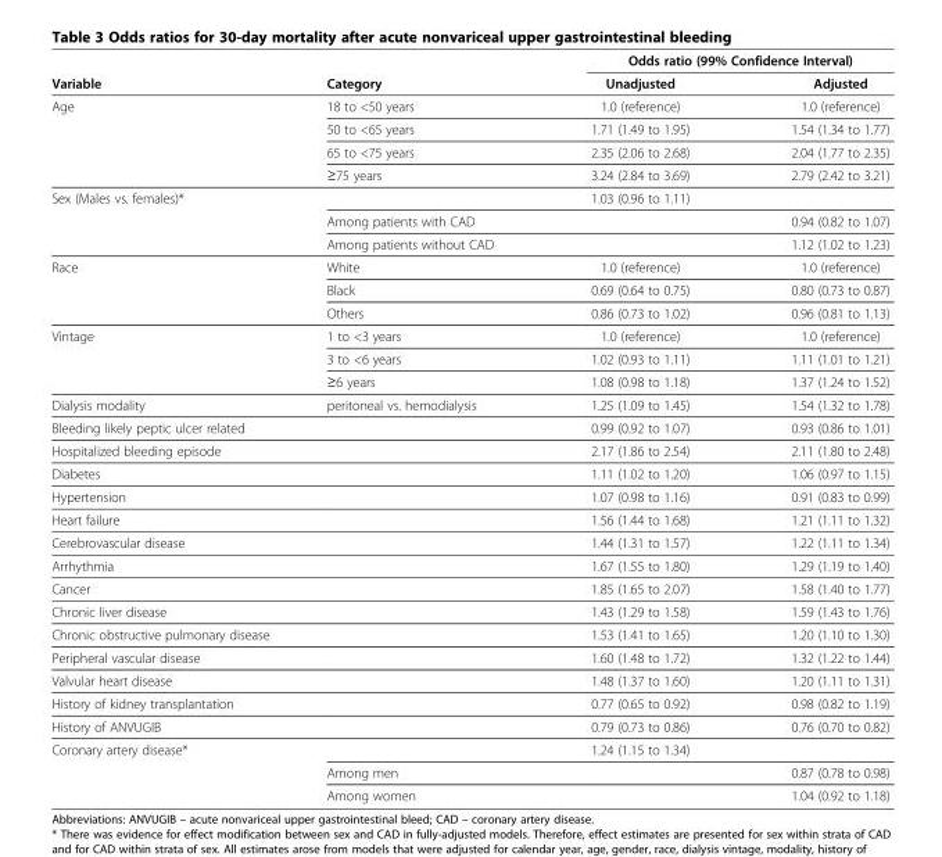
<table><thead><tr><td rowspan="2">Variable</td><td rowspan="2">Category</td><td colspan="2">Odds ratio (99% Confidence Interval)</td></tr><tr><td>Unadjusted</td><td>Adjusted</td></tr></thead><tbody><tr><td rowspan="4">Age</td><td>18 to &lt;50 years</td><td>1.0 (reference)</td><td>1.0 (reference)</td></tr><tr><td>50 to &lt;65 years</td><td>1.71 (1.49 to 1.95)</td><td>1.54 (1.34 to 1.77)</td></tr><tr><td>65 to &lt;75 years</td><td>2.35 (2.06 to 2.68)</td><td>2.04 (1.77 to 2.35)</td></tr><tr><td>≥75 years</td><td>3.24 (2.84 to 3.69)</td><td>2.79 (2.42 to 3.21)</td></tr><tr><td rowspan="3">Sex (Males vs. females)*</td><td></td><td>1.03 (0.96 to 1.11)</td><td></td></tr><tr><td>Among patients with CAD</td><td></td><td>0.94 (0.82 to 1.07)</td></tr><tr><td>Among patients without CAD</td><td></td><td>1.12 (1.02 to 1.23)</td></tr><tr><td rowspan="3">Race</td><td>White</td><td>1.0 (reference)</td><td>1.0 (reference)</td></tr><tr><td>Black</td><td>0.69 (0.64 to 0.75)</td><td>0.80 (0.73 to 0.87)</td></tr><tr><td>Others</td><td>0.86 (0.73 to 1.02)</td><td>0.96 (0.81 to 1.13)</td></tr><tr><td rowspan="3">Vintage</td><td>1 to &lt;3 years</td><td>1.0 (reference)</td><td>1.0 (reference)</td></tr><tr><td>3 to &lt;6 years</td><td>1.02 (0.93 to 1.11)</td><td>1.11 (1.01 to 1.21)</td></tr><tr><td>≥6 years</td><td>1.08 (0.98 to 1.18)</td><td>1.37 (1.24 to 1.52)</td></tr><tr><td>Dialysis modality</td><td>peritoneal vs. hemodialysis</td><td>1.25 (1.09 to 1.45)</td><td>1.54 (1.32 to 1.78)</td></tr><tr><td colspan="2">Bleeding likely peptic ulcer related</td><td>0.99 (0.92 to 1.07)</td><td>0.93 (0.86 to 1.01)</td></tr><tr><td colspan="2">Hospitalized bleeding episode</td><td>2.17 (1.86 to 2.54)</td><td>2.11 (1.80 to 2.48)</td></tr><tr><td>Diabetes</td><td></td><td>1.11 (1.02 to 1.20)</td><td>1.06 (0.97 to 1.15)</td></tr><tr><td>Hypertension</td><td></td><td>1.07 (0.98 to 1.16)</td><td>0.91 (0.83 to 0.99)</td></tr><tr><td>Heart failure</td><td></td><td>1.56 (1.44 to 1.68)</td><td>1.21 (1.11 to 1.32)</td></tr><tr><td>Cerebrovascular disease</td><td></td><td>1.44 (1.31 to 1.57)</td><td>1.22 (1.11 to 1.34)</td></tr><tr><td>Arrhythmia</td><td></td><td>1.67 (1.55 to 1.80)</td><td>1.29 (1.19 to 1.40)</td></tr><tr><td>Cancer</td><td></td><td>1.85 (1.65 to 2.07)</td><td>1.58 (1.40 to 1.77)</td></tr><tr><td>Chronic liver disease</td><td></td><td>1.43 (1.29 to 1.58)</td><td>1.59 (1.43 to 1.76)</td></tr><tr><td colspan="2">Chronic obstructive pulmonary disease</td><td>1.53 (1.41 to 1.65)</td><td>1.20 (1.10 to 1.30)</td></tr><tr><td>Peripheral vascular disease</td><td></td><td>1.60 (1.48 to 1.72)</td><td>1.32 (1.22 to 1.44)</td></tr><tr><td>Valvular heart disease</td><td></td><td>1.48 (1.37 to 1.60)</td><td>1.20 (1.11 to 1.31)</td></tr><tr><td>History of kidney transplantation</td><td></td><td>0.77 (0.65 to 0.92)</td><td>0.98 (0.82 to 1.19)</td></tr><tr><td>History of ANVUGIB</td><td></td><td>0.79 (0.73 to 0.86)</td><td>0.76 (0.70 to 0.82)</td></tr><tr><td rowspan="3">Coronary artery disease*</td><td></td><td>1.24 (1.15 to 1.34)</td><td></td></tr><tr><td>Among men</td><td></td><td>0.87 (0.78 to 0.98)</td></tr><tr><td>Among women</td><td></td><td>1.04 (0.92 to 1.18)</td></tr></tbody></table>